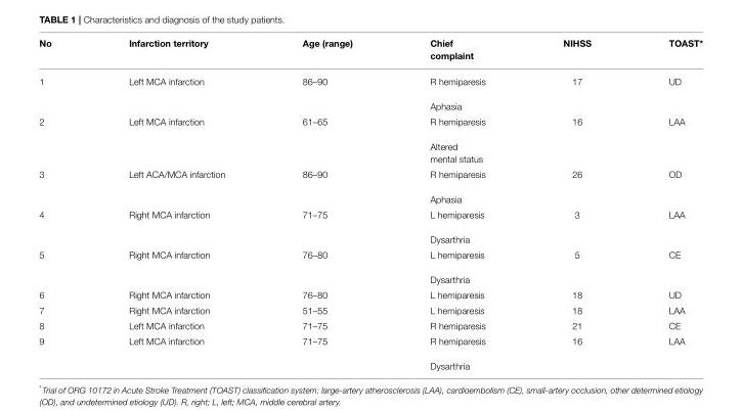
<table><thead><tr><td>No</td><td>Infarction territory</td><td>Age (range)</td><td>Chief complaint</td><td>NIHSS</td><td>TOAST*</td></tr></thead><tbody><tr><td>1</td><td>Left MCA infarction</td><td>86–90</td><td>R hemiparesis Aphasia</td><td>17</td><td>UD</td></tr><tr><td>2</td><td>Left MCA infarction</td><td>61–65</td><td>R hemiparesis Altered mental status</td><td>16</td><td>LAA</td></tr><tr><td>3</td><td>Left ACA/MCA infarction</td><td>86–90</td><td>R hemiparesis Aphasia</td><td>26</td><td>OD</td></tr><tr><td>4</td><td>Right MCA infarction</td><td>71–75</td><td>L hemiparesis Dysarthria</td><td>3</td><td>LAA</td></tr><tr><td>5</td><td>Right MCA infarction</td><td>76–80</td><td>L hemiparesis Dysarthria</td><td>5</td><td>CE</td></tr><tr><td>6</td><td>Right MCA infarction</td><td>76–80</td><td>L hemiparesis</td><td>18</td><td>UD</td></tr><tr><td>7</td><td>Right MCA infarction</td><td>51–55</td><td>L hemiparesis</td><td>18</td><td>LAA</td></tr><tr><td>8</td><td>Left MCA infarction</td><td>71–75</td><td>R hemiparesis</td><td>21</td><td>CE</td></tr><tr><td>9</td><td>Left MCA infarction</td><td>71–75</td><td>R hemiparesis Dysarthria</td><td>16</td><td>LAA</td></tr></tbody></table>